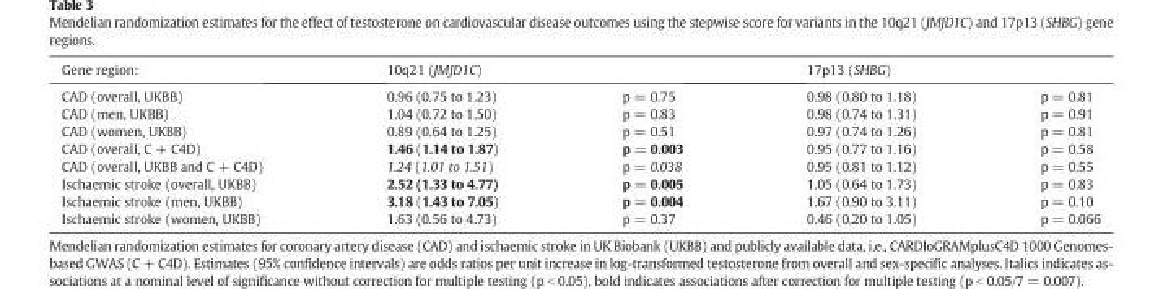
<table><thead><tr><td rowspan="2">Gene region: CAD (overall, UKBB)</td><td colspan="2">10q21 (JMJD1C)</td><td colspan="2">17p13 (SHBG)</td></tr><tr><td>0.96 (0.75 to 1.23)</td><td>p = 0.75</td><td>0.98 (0.80 to 1.18)</td><td>p = 0.81</td></tr></thead><tbody><tr><td>CAD (men, UKBB)</td><td>1.04 (0.72 to 1.50)</td><td>p = 0.83</td><td>0.98 (0.74 to 1.31)</td><td>p = 0.91</td></tr><tr><td>CAD (women, UKBB)</td><td>0.89 (0.64 to 1.25)</td><td>p = 0.51</td><td>0.97 (0.74 to 1.26)</td><td>p = 0.81</td></tr><tr><td>CAD (overall, C + C4D)</td><td>1.46 (1.14 to 1.87)</td><td>p = 0.003</td><td>0.95 (0.77 to 1.16)</td><td>p = 0.58</td></tr><tr><td>CAD (overall, UKBB and C + C4D)</td><td>1.24 (1.01 to 1.51)</td><td>p = 0.038</td><td>0.95 (0.81 to 1.12)</td><td>p = 0.55</td></tr><tr><td>Ischaemic stroke (overall, UKBB)</td><td>2.52 (1.33 to 4.77)</td><td>p = 0.005</td><td>1.05 (0.64 to 1.73)</td><td>p = 0.83</td></tr><tr><td>Ischaemic stroke (men, UKBB)</td><td>3.18 (1.43 to 7.05)</td><td>p = 0.004</td><td>1.67 (0.90 to 3.11)</td><td>p = 0.10</td></tr><tr><td>Ischaemic stroke (women, UKBB)</td><td>1.63 (0.56 to 4.73)</td><td>p = 0.37</td><td>0.46 (0.20 to 1.05)</td><td>p = 0.066</td></tr></tbody></table>